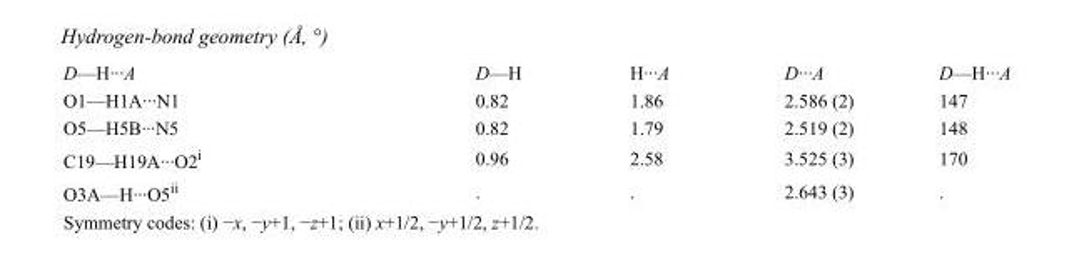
<table><tbody><tr><td>D—H···A</td><td>D—H</td><td>H···A</td><td>D···A</td><td>D—H···A</td></tr><tr><td>O1—H1A···N1</td><td>0.82</td><td>1.86</td><td>2.586 (2)</td><td>147</td></tr><tr><td>O5—H5B···N5</td><td>0.82</td><td>1.79</td><td>2.519 (2)</td><td>148</td></tr><tr><td>C19—H19A···O2<sup>i</sup></td><td>0.96</td><td>2.58</td><td>3.525 (3)</td><td>170</td></tr><tr><td>O3A—H···O5<sup>ii</sup></td><td>.</td><td>.</td><td>2.643 (3)</td><td>.</td></tr></tbody></table>